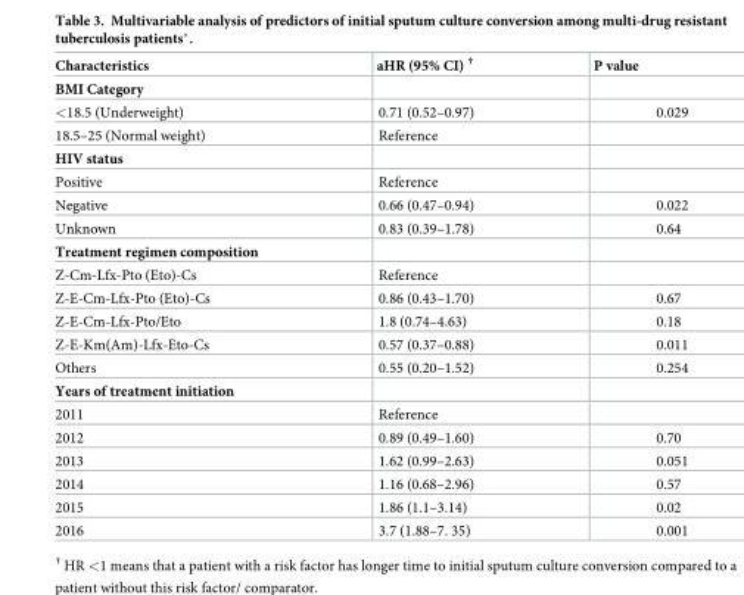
<table><thead><tr><td>Characteristics</td><td>aHR (95% CI) <sup>†</sup></td><td>P value</td></tr></thead><tbody><tr><td colspan="3">BMI Category</td></tr><tr><td>&lt;18.5 (Underweight)</td><td>0.71 (0.52–0.97)</td><td>0.029</td></tr><tr><td>18.5–25 (Normal weight)</td><td>Reference</td><td></td></tr><tr><td colspan="3">HIV status</td></tr><tr><td>Positive</td><td>Reference</td><td></td></tr><tr><td>Negative</td><td>0.66 (0.47–0.94)</td><td>0.022</td></tr><tr><td>Unknown</td><td>0.83 (0.39–1.78)</td><td>0.64</td></tr><tr><td colspan="3">Treatment regimen composition</td></tr><tr><td>Z-Cm-Lfx-Pto (Eto)-Cs</td><td>Reference</td><td></td></tr><tr><td>Z-E-Cm-Lfx-Pto (Eto)-Cs</td><td>0.86 (0.43–1.70)</td><td>0.67</td></tr><tr><td>Z-E-Cm-Lfx-Pto/Eto</td><td>1.8 (0.74–4.63)</td><td>0.18</td></tr><tr><td>Z-E-Km(Am)-Lfx-Eto-Cs</td><td>0.57 (0.37–0.88)</td><td>0.011</td></tr><tr><td>Others</td><td>0.55 (0.20–1.52)</td><td>0.254</td></tr><tr><td colspan="3">Years of treatment initiation</td></tr><tr><td>2011</td><td>Reference</td><td></td></tr><tr><td>2012</td><td>0.89 (0.49–1.60)</td><td>0.70</td></tr><tr><td>2013</td><td>1.62 (0.99–2.63)</td><td>0.051</td></tr><tr><td>2014</td><td>1.16 (0.68–2.96)</td><td>0.57</td></tr><tr><td>2015</td><td>1.86 (1.1–3.14)</td><td>0.02</td></tr><tr><td>2016</td><td>3.7 (1.88–7. 35)</td><td>0.001</td></tr></tbody></table>